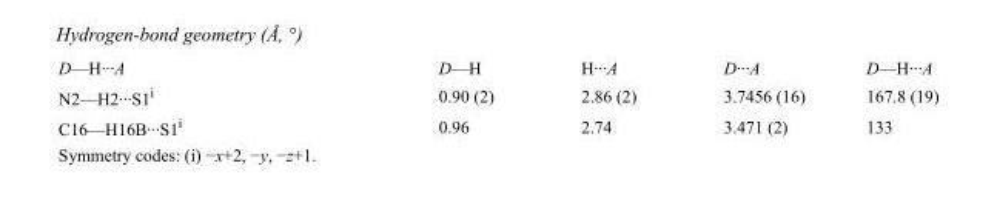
<table><tbody><tr><td>D—H···A</td><td>D—H</td><td>H···A</td><td>D···A</td><td>D—H···A</td></tr><tr><td>N2—H2···S1<sup>i</sup></td><td>0.90 (2)</td><td>2.86 (2)</td><td>3.7456 (16)</td><td>167.8 (19)</td></tr><tr><td>C16—H16B···S1<sup>i</sup></td><td>0.96</td><td>2.74</td><td>3.471 (2)</td><td>133</td></tr></tbody></table>